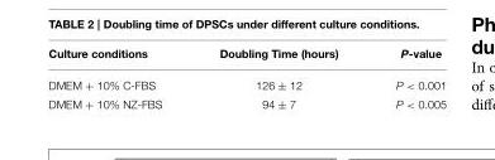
<table><thead><tr><td>Culture conditions</td><td>Doubling Time (hours)</td><td>P-value</td></tr></thead><tbody><tr><td>DMEM + 10% C-FBS</td><td>126 ± 12</td><td>P &lt; 0.001</td></tr><tr><td>DMEM + 10% NZ-FBS</td><td>94 ± 7</td><td>P &lt; 0.005</td></tr></tbody></table>